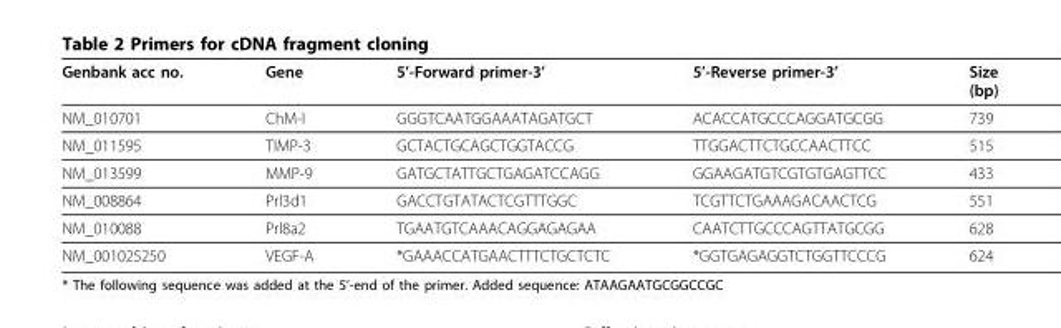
<table><thead><tr><td>Genbank acc no.</td><td>Gene</td><td>5’-Forward primer-3’</td><td>5’-Reverse primer-3’</td><td>Size (bp)</td></tr></thead><tbody><tr><td>NM_010701</td><td>ChM-I</td><td>GGGTCAATGGAAATAGATGCT</td><td>ACACCATGCCCAGGATGCGG</td><td>739</td></tr><tr><td>NM_011595</td><td>TIMP-3</td><td>GCTACTGCAGCTGGTACCG</td><td>TTGGACTTCTGCCAACTTCC</td><td>515</td></tr><tr><td>NM_013599</td><td>MMP-9</td><td>GATGCTATTGCTGAGATCCAGG</td><td>GGAAGATGTCGTGTGAGTTCC</td><td>433</td></tr><tr><td>NM_008864</td><td>Prl3d1</td><td>GACCTGTATACTCGTTTGGC</td><td>TCGTTCTGAAAGACAACTCG</td><td>551</td></tr><tr><td>NM_010088</td><td>Prl8a2</td><td>TGAATGTCAAACAGGAGAGAA</td><td>CAATCTTGCCCAGTTATGCGG</td><td>628</td></tr><tr><td>NM_001025250</td><td>VEGF-A</td><td>*GAAACCATGAACTTTCTGCTCTC</td><td>*GGTGAGAGGTCTGGTTCCCG</td><td>624</td></tr></tbody></table>